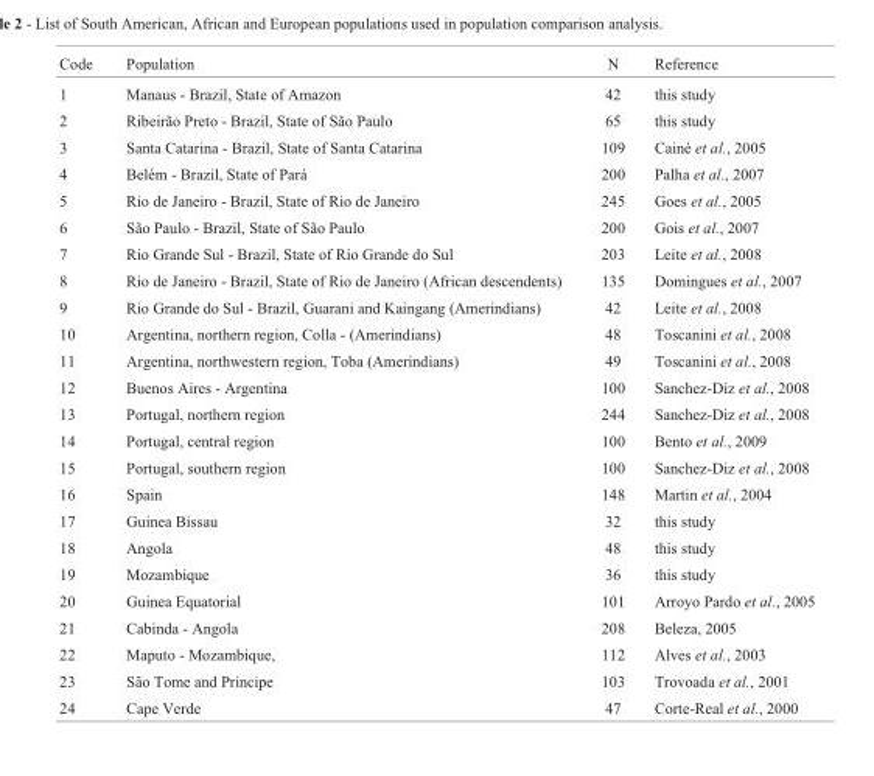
<table><thead><tr><td>Code</td><td>Population</td><td>N</td><td>Reference</td></tr></thead><tbody><tr><td>1</td><td>Manaus - Brazil, State of Amazon</td><td>42</td><td>this study</td></tr><tr><td>2</td><td>Ribeirão Preto - Brazil, State of São Paulo</td><td>65</td><td>this study</td></tr><tr><td>3</td><td>Santa Catarina - Brazil, State of Santa Catarina</td><td>109</td><td>Cainé et al., 2005</td></tr><tr><td>4</td><td>Belém - Brazil, State of Pará</td><td>200</td><td>Palha et al., 2007</td></tr><tr><td>5</td><td>Rio de Janeiro - Brazil, State of Rio de Janeiro</td><td>245</td><td>Goes et al., 2005</td></tr><tr><td>6</td><td>São Paulo - Brazil, State of São Paulo</td><td>200</td><td>Gois et al., 2007</td></tr><tr><td>7</td><td>Rio Grande Sul - Brazil, State of Rio Grande do Sul</td><td>203</td><td>Leite et al., 2008</td></tr><tr><td>8</td><td>Rio de Janeiro - Brazil, State of Rio de Janeiro (African descendents)</td><td>135</td><td>Domingues et al., 2007</td></tr><tr><td>9</td><td>Rio Grande do Sul - Brazil, Guarani and Kaingang (Amerindians)</td><td>42</td><td>Leite et al., 2008</td></tr><tr><td>10</td><td>Argentina, northern region, Colla - (Amerindians)</td><td>48</td><td>Toscanini et al., 2008</td></tr><tr><td>11</td><td>Argentina, northwestern region, Toba (Amerindians)</td><td>49</td><td>Toscanini et al., 2008</td></tr><tr><td>12</td><td>Buenos Aires - Argentina</td><td>100</td><td>Sanchez-Diz et al., 2008</td></tr><tr><td>13</td><td>Portugal, northern region</td><td>244</td><td>Sanchez-Diz et al., 2008</td></tr><tr><td>14</td><td>Portugal, central region</td><td>100</td><td>Bento et al., 2009</td></tr><tr><td>15</td><td>Portugal, southern region</td><td>100</td><td>Sanchez-Diz et al., 2008</td></tr><tr><td>16</td><td>Spain</td><td>148</td><td>Martin et al., 2004</td></tr><tr><td>17</td><td>Guinea Bissau</td><td>32</td><td>this study</td></tr><tr><td>18</td><td>Angola</td><td>48</td><td>this study</td></tr><tr><td>19</td><td>Mozambique</td><td>36</td><td>this study</td></tr><tr><td>20</td><td>Guinea Equatorial</td><td>101</td><td>Arroyo Pardo et al., 2005</td></tr><tr><td>21</td><td>Cabinda - Angola</td><td>208</td><td>Beleza, 2005</td></tr><tr><td>22</td><td>Maputo - Mozambique,</td><td>112</td><td>Alves et al., 2003</td></tr><tr><td>23</td><td>São Tome and Principe</td><td>103</td><td>Trovoada et al., 2001</td></tr><tr><td>24</td><td>Cape Verde</td><td>47</td><td>Corte-Real et al., 2000</td></tr></tbody></table>